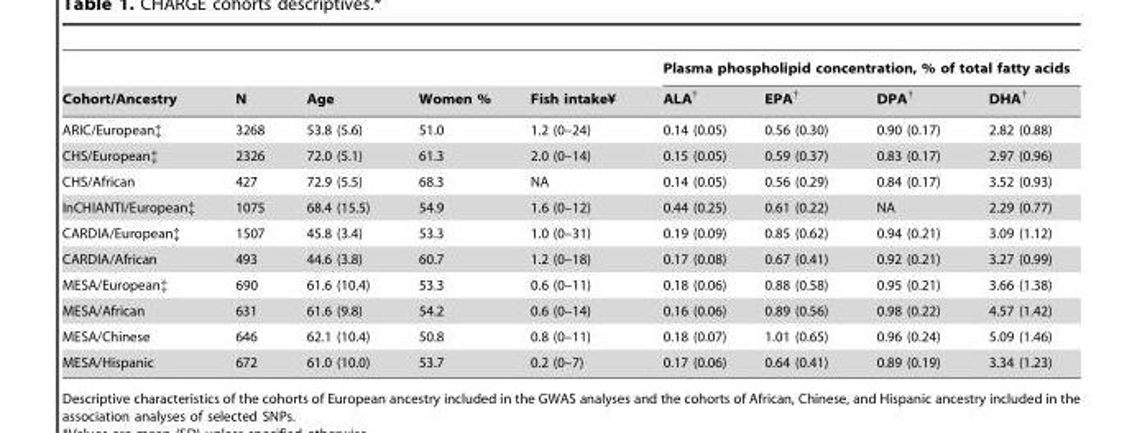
<table><thead><tr><td rowspan="2">Cohort/Ancestry</td><td rowspan="2">N</td><td rowspan="2">Age</td><td rowspan="2">Women %</td><td rowspan="2">Fish intake¥</td><td colspan="4">Plasma phospholipid concentration, % of total fatty acids</td></tr><tr><td>ALA<sup>†</sup></td><td>EPA<sup>†</sup></td><td>DPA<sup>†</sup></td><td>DHA<sup>†</sup></td></tr></thead><tbody><tr><td>ARIC/European‡</td><td>3268</td><td>53.8 (5.6)</td><td>51.0</td><td>1.2 (0–24)</td><td>0.14 (0.05)</td><td>0.56 (0.30)</td><td>0.90 (0.17)</td><td>2.82 (0.88)</td></tr><tr><td>CHS/European‡</td><td>2326</td><td>72.0 (5.1)</td><td>61.3</td><td>2.0 (0–14)</td><td>0.15 (0.05)</td><td>0.59 (0.37)</td><td>0.83 (0.17)</td><td>2.97 (0.96)</td></tr><tr><td>CHS/African</td><td>427</td><td>72.9 (5.5)</td><td>68.3</td><td>NA</td><td>0.14 (0.05)</td><td>0.56 (0.29)</td><td>0.84 (0.17)</td><td>3.52 (0.93)</td></tr><tr><td>InCHIANTI/European‡</td><td>1075</td><td>68.4 (15.5)</td><td>54.9</td><td>1.6 (0–12)</td><td>0.44 (0.25)</td><td>0.61 (0.22)</td><td>NA</td><td>2.29 (0.77)</td></tr><tr><td>CARDIA/European‡</td><td>1507</td><td>45.8 (3.4)</td><td>53.3</td><td>1.0 (0–31)</td><td>0.19 (0.09)</td><td>0.85 (0.62)</td><td>0.94 (0.21)</td><td>3.09 (1.12)</td></tr><tr><td>CARDIA/African</td><td>493</td><td>44.6 (3.8)</td><td>60.7</td><td>1.2 (0–18)</td><td>0.17 (0.08)</td><td>0.67 (0.41)</td><td>0.92 (0.21)</td><td>3.27 (0.99)</td></tr><tr><td>MESA/European‡</td><td>690</td><td>61.6 (10.4)</td><td>53.3</td><td>0.6 (0–11)</td><td>0.18 (0.06)</td><td>0.88 (0.58)</td><td>0.95 (0.21)</td><td>3.66 (1.38)</td></tr><tr><td>MESA/African</td><td>631</td><td>61.6 (9.8)</td><td>54.2</td><td>0.6 (0–14)</td><td>0.16 (0.06)</td><td>0.89 (0.56)</td><td>0.98 (0.22)</td><td>4.57 (1.42)</td></tr><tr><td>MESA/Chinese</td><td>646</td><td>62.1 (10.4)</td><td>50.8</td><td>0.8 (0–11)</td><td>0.18 (0.07)</td><td>1.01 (0.65)</td><td>0.96 (0.24)</td><td>5.09 (1.46)</td></tr><tr><td>MESA/Hispanic</td><td>672</td><td>61.0 (10.0)</td><td>53.7</td><td>0.2 (0–7)</td><td>0.17 (0.06)</td><td>0.64 (0.41)</td><td>0.89 (0.19)</td><td>3.34 (1.23)</td></tr></tbody></table>